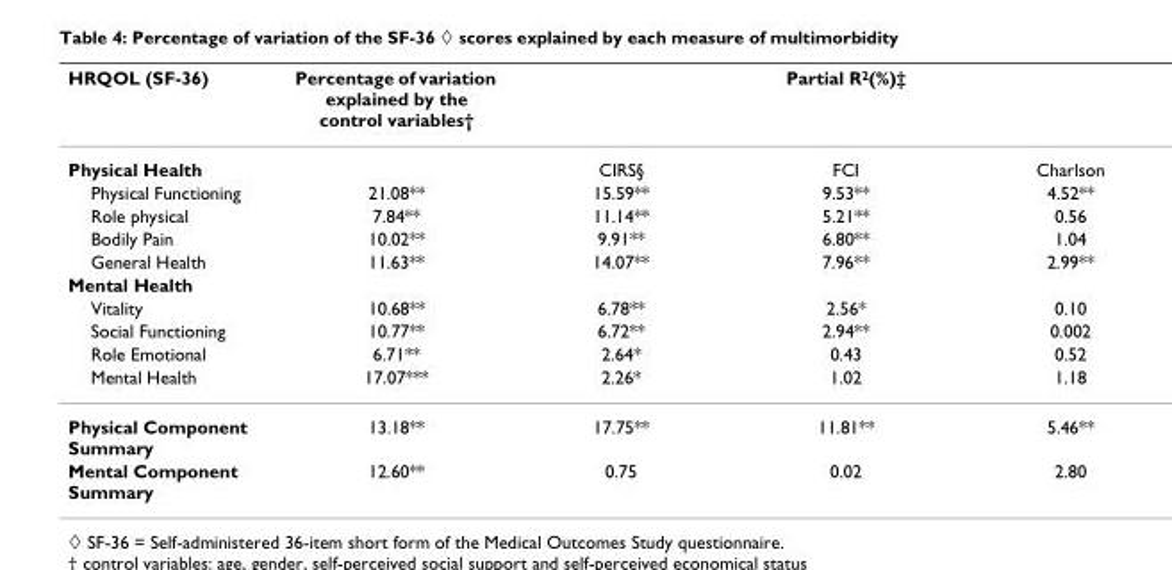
<table><thead><tr><td rowspan="2">HRQOL (SF-36) Physical Health</td><td rowspan="2">Percentage of variation explained by the control variables†</td><td colspan="3">Partial R<sup>2</sup>(%)‡</td></tr><tr><td>CIRS§</td><td>FCI</td><td>Charlson</td></tr></thead><tbody><tr><td>Physical Functioning</td><td>21.08**</td><td>15.59**</td><td>9.53**</td><td>4.52**</td></tr><tr><td>Role physical</td><td>7.84**</td><td>11.14**</td><td>5.21**</td><td>0.56</td></tr><tr><td>Bodily Pain</td><td>10.02**</td><td>9.91**</td><td>6.80**</td><td>1.04</td></tr><tr><td>General Health</td><td>11.63**</td><td>14.07**</td><td>7.96**</td><td>2.99**</td></tr><tr><td colspan="5">Mental Health</td></tr><tr><td>Vitality</td><td>10.68**</td><td>6.78**</td><td>2.56*</td><td>0.10</td></tr><tr><td>Social Functioning</td><td>10.77**</td><td>6.72**</td><td>2.94**</td><td>0.002</td></tr><tr><td>Role Emotional</td><td>6.71**</td><td>2.64*</td><td>0.43</td><td>0.52</td></tr><tr><td>Mental Health</td><td>17.07***</td><td>2.26*</td><td>1.02</td><td>1.18</td></tr><tr><td>Physical Component Summary</td><td>13.18**</td><td>17.75**</td><td>11.81**</td><td>5.46**</td></tr><tr><td>Mental Component Summary</td><td>12.60**</td><td>0.75</td><td>0.02</td><td>2.80</td></tr></tbody></table>